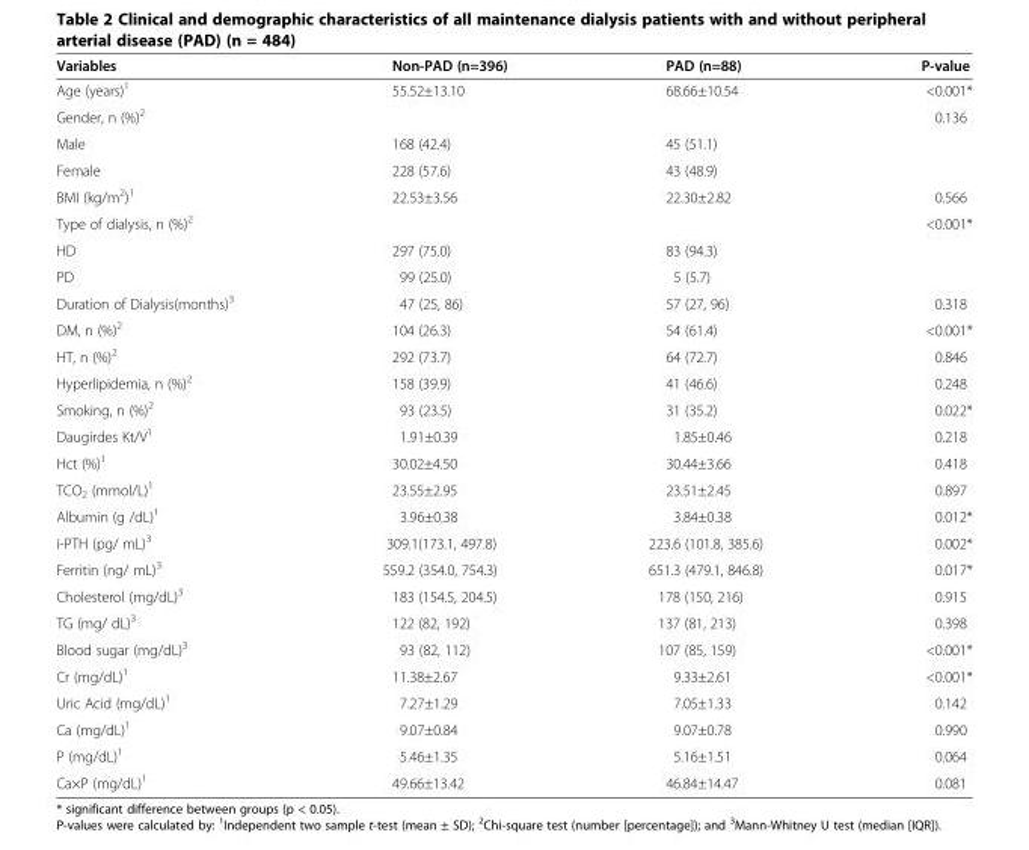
<table><thead><tr><td>Variables</td><td>Non-PAD (n=396)</td><td>PAD (n=88)</td><td>P-value</td></tr></thead><tbody><tr><td>Age (years)<sup>1</sup></td><td>55.52±13.10</td><td>68.66±10.54</td><td>&lt;0.001*</td></tr><tr><td>Gender, n (%)<sup>2</sup></td><td></td><td></td><td>0.136</td></tr><tr><td>Male</td><td>168 (42.4)</td><td>45 (51.1)</td><td></td></tr><tr><td>Female</td><td>228 (57.6)</td><td>43 (48.9)</td><td></td></tr><tr><td>BMI (kg/m<sup>2</sup>)<sup>1</sup></td><td>22.53±3.56</td><td>22.30±2.82</td><td>0.566</td></tr><tr><td>Type of dialysis, n (%)<sup>2</sup></td><td></td><td></td><td>&lt;0.001*</td></tr><tr><td>HD</td><td>297 (75.0)</td><td>83 (94.3)</td><td></td></tr><tr><td>PD</td><td>99 (25.0)</td><td>5 (5.7)</td><td></td></tr><tr><td>Duration of Dialysis(months)<sup>3</sup></td><td>47 (25, 86)</td><td>57 (27, 96)</td><td>0.318</td></tr><tr><td>DM, n (%)<sup>2</sup></td><td>104 (26.3)</td><td>54 (61.4)</td><td>&lt;0.001*</td></tr><tr><td>HT, n (%)<sup>2</sup></td><td>292 (73.7)</td><td>64 (72.7)</td><td>0.846</td></tr><tr><td>Hyperlipidemia, n (%)<sup>2</sup></td><td>158 (39.9)</td><td>41 (46.6)</td><td>0.248</td></tr><tr><td>Smoking, n (%)<sup>2</sup></td><td>93 (23.5)</td><td>31 (35.2)</td><td>0.022*</td></tr><tr><td>Daugirdes Kt/V<sup>1</sup></td><td>1.91±0.39</td><td>1.85±0.46</td><td>0.218</td></tr><tr><td>Hct (%)<sup>1</sup></td><td>30.02±4.50</td><td>30.44±3.66</td><td>0.418</td></tr><tr><td>TCO<sub>2</sub> (mmol/L)<sup>1</sup></td><td>23.55±2.95</td><td>23.51±2.45</td><td>0.897</td></tr><tr><td>Albumin (g /dL)<sup>1</sup></td><td>3.96±0.38</td><td>3.84±0.38</td><td>0.012*</td></tr><tr><td>i-PTH (pg/ mL)<sup>3</sup></td><td>309.1(173.1, 497.8)</td><td>223.6 (101.8, 385.6)</td><td>0.002*</td></tr><tr><td>Ferritin (ng/ mL)<sup>3</sup></td><td>559.2 (354.0, 754.3)</td><td>651.3 (479.1, 846.8)</td><td>0.017*</td></tr><tr><td>Cholesterol (mg/dL)<sup>3</sup></td><td>183 (154.5, 204.5)</td><td>178 (150, 216)</td><td>0.915</td></tr><tr><td>TG (mg/ dL)<sup>3</sup></td><td>122 (82, 192)</td><td>137 (81, 213)</td><td>0.398</td></tr><tr><td>Blood sugar (mg/dL)<sup>3</sup></td><td>93 (82, 112)</td><td>107 (85, 159)</td><td>&lt;0.001*</td></tr><tr><td>Cr (mg/dL)<sup>1</sup></td><td>11.38±2.67</td><td>9.33±2.61</td><td>&lt;0.001*</td></tr><tr><td>Uric Acid (mg/dL)<sup>1</sup></td><td>7.27±1.29</td><td>7.05±1.33</td><td>0.142</td></tr><tr><td>Ca (mg/dL)<sup>1</sup></td><td>9.07±0.84</td><td>9.07±0.78</td><td>0.990</td></tr><tr><td>P (mg/dL)<sup>1</sup></td><td>5.46±1.35</td><td>5.16±1.51</td><td>0.064</td></tr><tr><td>Ca×P (mg/dL)<sup>1</sup></td><td>49.66±13.42</td><td>46.84±14.47</td><td>0.081</td></tr></tbody></table>